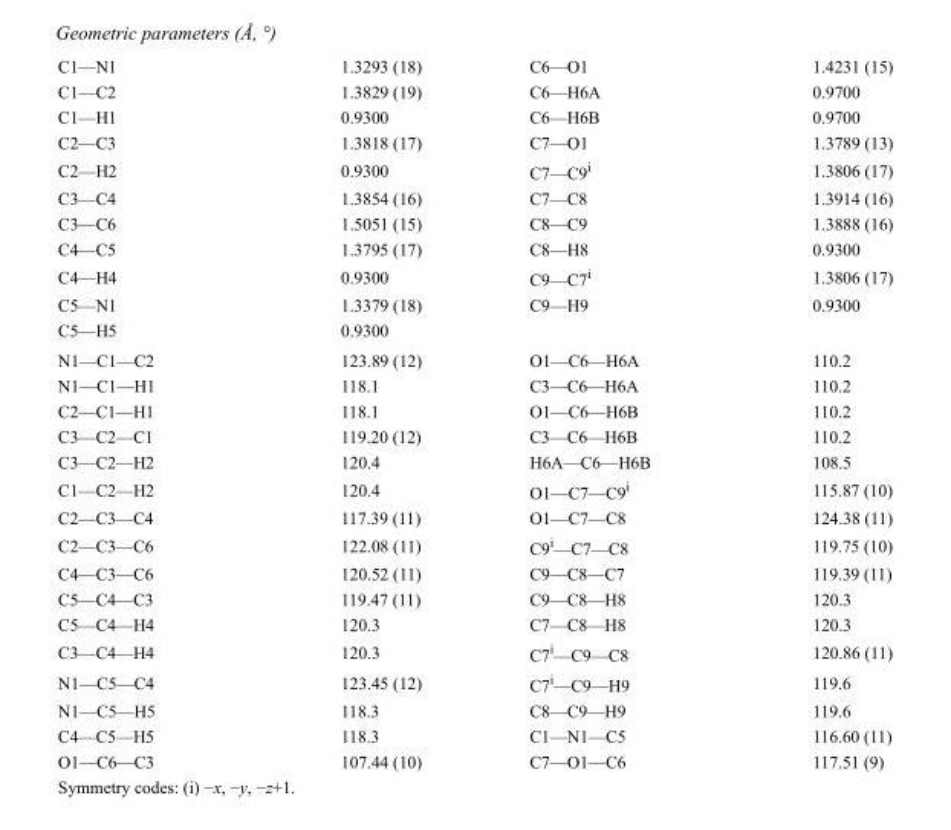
<table><tbody><tr><td>C1—N1</td><td>1.3293 (18)</td><td>C6—O1</td><td>1.4231 (15)</td></tr><tr><td>C1—C2</td><td>1.3829 (19)</td><td>C6—H6A</td><td>0.9700</td></tr><tr><td>C1—H1</td><td>0.9300</td><td>C6—H6B</td><td>0.9700</td></tr><tr><td>C2—C3</td><td>1.3818 (17)</td><td>C7—O1</td><td>1.3789 (13)</td></tr><tr><td>C2—H2</td><td>0.9300</td><td>C7—C9<sup>i</sup></td><td>1.3806 (17)</td></tr><tr><td>C3—C4</td><td>1.3854 (16)</td><td>C7—C8</td><td>1.3914 (16)</td></tr><tr><td>C3—C6</td><td>1.5051 (15)</td><td>C8—C9</td><td>1.3888 (16)</td></tr><tr><td>C4—C5</td><td>1.3795 (17)</td><td>C8—H8</td><td>0.9300</td></tr><tr><td>C4—H4</td><td>0.9300</td><td>C9—C7<sup>i</sup></td><td>1.3806 (17)</td></tr><tr><td>C5—N1</td><td>1.3379 (18)</td><td>C9—H9</td><td>0.9300</td></tr><tr><td>C5—H5</td><td>0.9300</td><td></td><td></td></tr><tr><td>N1—C1—C2</td><td>123.89 (12)</td><td>O1—C6—H6A</td><td>110.2</td></tr><tr><td>N1—C1—H1</td><td>118.1</td><td>C3—C6—H6A</td><td>110.2</td></tr><tr><td>C2—C1—H1</td><td>118.1</td><td>O1—C6—H6B</td><td>110.2</td></tr><tr><td>C3—C2—C1</td><td>119.20 (12)</td><td>C3—C6—H6B</td><td>110.2</td></tr><tr><td>C3—C2—H2</td><td>120.4</td><td>H6A—C6—H6B</td><td>108.5</td></tr><tr><td>C1—C2—H2</td><td>120.4</td><td>O1—C7—C9<sup>i</sup></td><td>115.87 (10)</td></tr><tr><td>C2—C3—C4</td><td>117.39 (11)</td><td>O1—C7—C8</td><td>124.38 (11)</td></tr><tr><td>C2—C3—C6</td><td>122.08 (11)</td><td>C9<sup>i</sup>—C7—C8</td><td>119.75 (10)</td></tr><tr><td>C4—C3—C6</td><td>120.52 (11)</td><td>C9—C8—C7</td><td>119.39 (11)</td></tr><tr><td>C5—C4—C3</td><td>119.47 (11)</td><td>C9—C8—H8</td><td>120.3</td></tr><tr><td>C5—C4—H4</td><td>120.3</td><td>C7—C8—H8</td><td>120.3</td></tr><tr><td>C3—C4—H4</td><td>120.3</td><td>C7<sup>i</sup>—C9—C8</td><td>120.86 (11)</td></tr><tr><td>N1—C5—C4</td><td>123.45 (12)</td><td>C7<sup>i</sup>—C9—H9</td><td>119.6</td></tr><tr><td>N1—C5—H5</td><td>118.3</td><td>C8—C9—H9</td><td>119.6</td></tr><tr><td>C4—C5—H5</td><td>118.3</td><td>C1—N1—C5</td><td>116.60 (11)</td></tr><tr><td>O1—C6—C3</td><td>107.44 (10)</td><td>C7—O1—C6</td><td>117.51 (9)</td></tr></tbody></table>